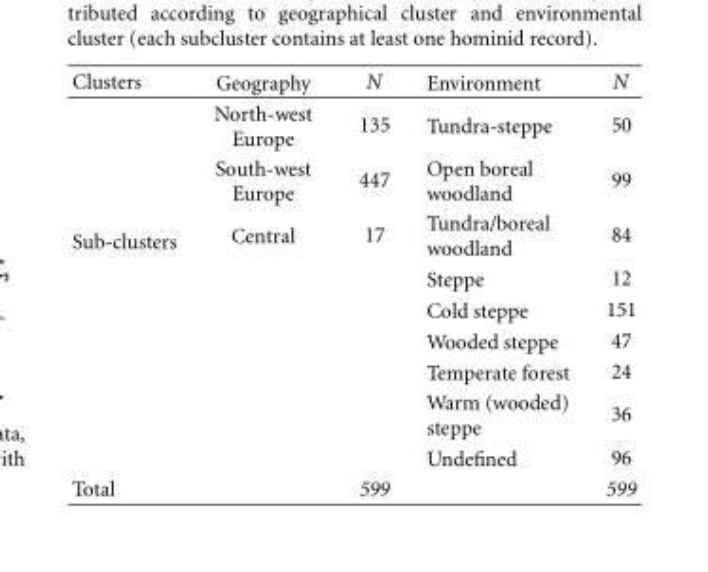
<table><thead><tr><td>Clusters</td><td>Geography</td><td>N</td><td>Environment</td><td>N</td></tr></thead><tbody><tr><td rowspan="9">Sub-clusters</td><td>North-west Europe</td><td>135</td><td>Tundra-steppe</td><td>50</td></tr><tr><td>South-west Europe</td><td>447</td><td>Open boreal woodland</td><td>99</td></tr><tr><td>Central</td><td>17</td><td>Tundra/boreal woodland</td><td>84</td></tr><tr><td></td><td></td><td>Steppe</td><td>12</td></tr><tr><td></td><td></td><td>Cold steppe</td><td>151</td></tr><tr><td></td><td></td><td>Wooded steppe</td><td>47</td></tr><tr><td></td><td></td><td>Temperate forest</td><td>24</td></tr><tr><td></td><td></td><td>Warm (wooded) steppe</td><td>36</td></tr><tr><td></td><td></td><td>Undefined</td><td>96</td></tr><tr><td>Total</td><td></td><td>599</td><td></td><td>599</td></tr></tbody></table>